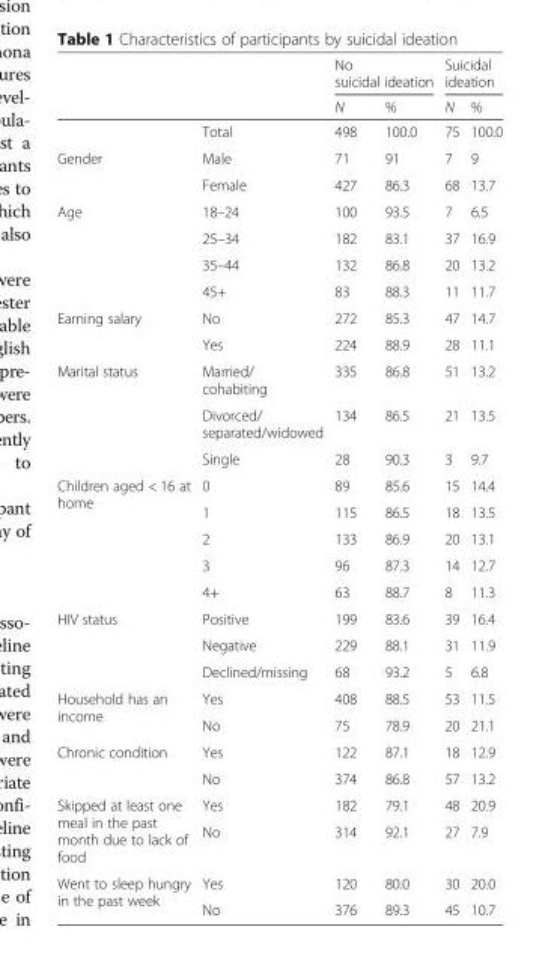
<table><thead><tr><td rowspan="2"></td><td rowspan="2"></td><td colspan="2">No suicidal ideation</td><td colspan="2">Suicidal ideation</td></tr><tr><td>N</td><td>%</td><td>N</td><td>%</td></tr></thead><tbody><tr><td></td><td>Total</td><td>498</td><td>100.0</td><td>75</td><td>100.0</td></tr><tr><td rowspan="2">Gender</td><td>Male</td><td>71</td><td>91</td><td>7</td><td>9</td></tr><tr><td>Female</td><td>427</td><td>86.3</td><td>68</td><td>13.7</td></tr><tr><td rowspan="4">Age</td><td>18–24</td><td>100</td><td>93.5</td><td>7</td><td>6.5</td></tr><tr><td>25–34</td><td>182</td><td>83.1</td><td>37</td><td>16.9</td></tr><tr><td>35–44</td><td>132</td><td>86.8</td><td>20</td><td>13.2</td></tr><tr><td>45+</td><td>83</td><td>88.3</td><td>11</td><td>11.7</td></tr><tr><td rowspan="2">Earning salary</td><td>No</td><td>272</td><td>85.3</td><td>47</td><td>14.7</td></tr><tr><td>Yes</td><td>224</td><td>88.9</td><td>28</td><td>11.1</td></tr><tr><td rowspan="3">Marital status</td><td>Married/ cohabiting</td><td>335</td><td>86.8</td><td>51</td><td>13.2</td></tr><tr><td>Divorced/ separated/widowed</td><td>134</td><td>86.5</td><td>21</td><td>13.5</td></tr><tr><td>Single</td><td>28</td><td>90.3</td><td>3</td><td>9.7</td></tr><tr><td rowspan="5">Children aged &lt; 16 at home</td><td>0</td><td>89</td><td>85.6</td><td>15</td><td>14.4</td></tr><tr><td>1</td><td>115</td><td>86.5</td><td>18</td><td>13.5</td></tr><tr><td>2</td><td>133</td><td>86.9</td><td>20</td><td>13.1</td></tr><tr><td>3</td><td>96</td><td>87.3</td><td>14</td><td>12.7</td></tr><tr><td>4+</td><td>63</td><td>88.7</td><td>8</td><td>11.3</td></tr><tr><td rowspan="3">HIV status</td><td>Positive</td><td>199</td><td>83.6</td><td>39</td><td>16.4</td></tr><tr><td>Negative</td><td>229</td><td>88.1</td><td>31</td><td>11.9</td></tr><tr><td>Declined/missing</td><td>68</td><td>93.2</td><td>5</td><td>6.8</td></tr><tr><td rowspan="2">Household has an income</td><td>Yes</td><td>408</td><td>88.5</td><td>53</td><td>11.5</td></tr><tr><td>No</td><td>75</td><td>78.9</td><td>20</td><td>21.1</td></tr><tr><td rowspan="2">Chronic condition</td><td>Yes</td><td>122</td><td>87.1</td><td>18</td><td>12.9</td></tr><tr><td>No</td><td>374</td><td>86.8</td><td>57</td><td>13.2</td></tr><tr><td rowspan="2">Skipped at least one meal in the past month due to lack of food</td><td>Yes</td><td>182</td><td>79.1</td><td>48</td><td>20.9</td></tr><tr><td>No</td><td>314</td><td>92.1</td><td>27</td><td>7.9</td></tr><tr><td rowspan="2">Went to sleep hungry in the past week</td><td>Yes</td><td>120</td><td>80.0</td><td>30</td><td>20.0</td></tr><tr><td>No</td><td>376</td><td>89.3</td><td>45</td><td>10.7</td></tr></tbody></table>